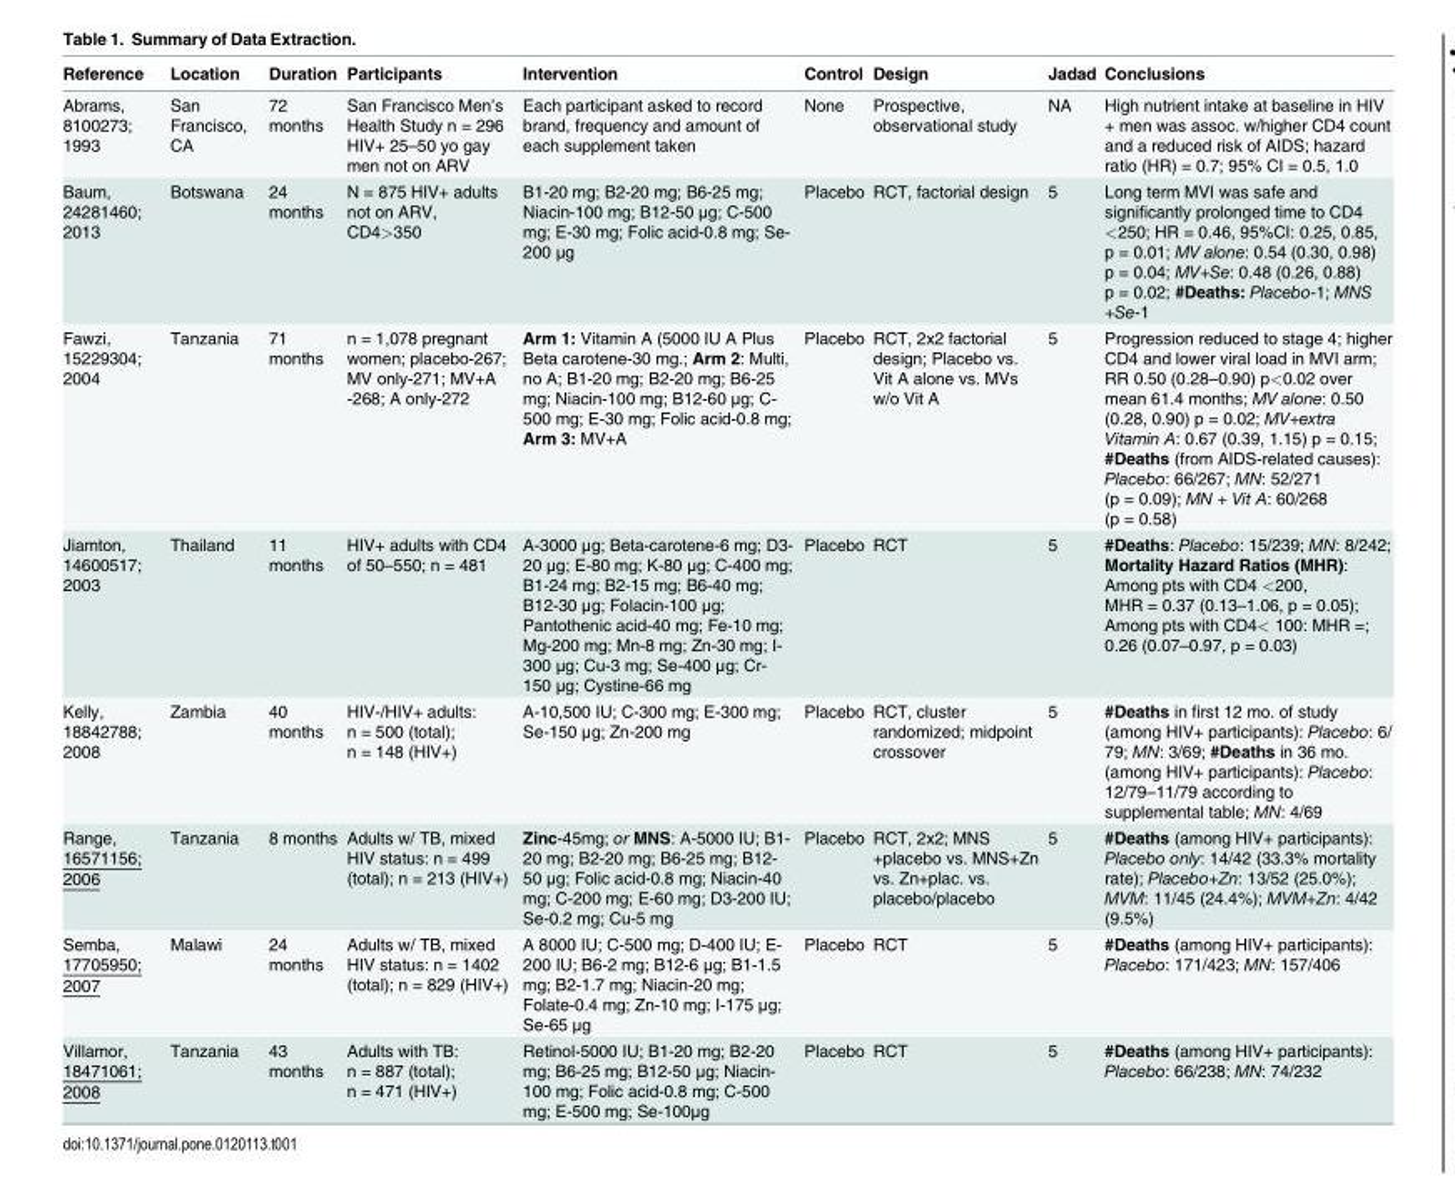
<table><thead><tr><td>Reference</td><td>Location</td><td>Duration</td><td>Participants</td><td>Intervention</td><td>Control</td><td>Design</td><td>Jadad</td><td>Conclusions</td></tr></thead><tbody><tr><td>Abrams, 8100273; 1993</td><td>San Francisco, CA</td><td>72 months</td><td>San Francisco Men’s Health Study n = 296 HIV+ 25–50 yo gay men not on ARV</td><td>Each participant asked to record brand, frequency and amount of each supplement taken</td><td>None</td><td>Prospective, observational study</td><td>NA</td><td>High nutrient intake at baseline in HIV + men was assoc. w/higher CD4 count and a reduced risk of AIDS; hazard ratio (HR) = 0.7; 95% CI = 0.5, 1.0</td></tr><tr><td>Baum, 24281460; 2013</td><td>Botswana</td><td>24 months</td><td>N = 875 HIV+ adults not on ARV, CD4&gt;350</td><td>B1-20 mg; B2-20 mg; B6-25 mg; Niacin-100 mg; B12-50 μg; C-500 mg; E-30 mg; Folic acid-0.8 mg; Se- 200 μg</td><td>Placebo</td><td>RCT, factorial design</td><td>5</td><td>Long term MVI was safe and significantly prolonged time to CD4 &lt;250; HR = 0.46, 95%CI: 0.25, 0.85, p = 0.01; MV alone: 0.54 (0.30, 0.98) p = 0.04; MV+Se: 0.48 (0.26, 0.88) p = 0.02; #Deaths: Placebo-1; MNS +Se-1</td></tr><tr><td>Fawzi, 15229304; 2004</td><td>Tanzania</td><td>71 months</td><td>n = 1,078 pregnant women; placebo-267; MV only-271; MV+A -268; A only-272</td><td>Arm 1: Vitamin A (5000 IU A Plus Beta carotene-30 mg.; Arm 2: Multi, no A; B1-20 mg; B2-20 mg; B6-25 mg; Niacin-100 mg; B12-60 μg; C- 500 mg; E-30 mg; Folic acid-0.8 mg; Arm 3: MV+A</td><td>Placebo</td><td>RCT, 2x2 factorial design; Placebo vs. Vit A alone vs. MVs w/o Vit A</td><td>5</td><td>Progression reduced to stage 4; higher CD4 and lower viral load in MVI arm; RR 0.50 (0.28–0.90) p&lt;0.02 over mean 61.4 months; MV alone: 0.50 (0.28, 0.90) p = 0.02; MV+extra Vitamin A: 0.67 (0.39, 1.15) p = 0.15; #Deaths (from AIDS-related causes): Placebo: 66/267; MN: 52/271 (p = 0.09); MN + Vit A: 60/268 (p = 0.58)</td></tr><tr><td>Jiamton, 14600517; 2003</td><td>Thailand</td><td>11 months</td><td>HIV+ adults with CD4 of 50–550; n = 481</td><td>A-3000 μg; Beta-carotene-6 mg; D3- 20 μg; E-80 mg; K-80 μg; C-400 mg; B1-24 mg; B2-15 mg; B6-40 mg; B12-30 μg; Folacin-100 μg; Pantothenic acid-40 mg; Fe-10 mg; Mg-200 mg; Mn-8 mg; Zn-30 mg; I- 300 μg; Cu-3 mg; Se-400 μg; Cr- 150 μg; Cystine-66 mg</td><td>Placebo</td><td>RCT</td><td>5</td><td>#Deaths: Placebo: 15/239; MN: 8/242; Mortality Hazard Ratios (MHR): Among pts with CD4 &lt;200, MHR = 0.37 (0.13–1.06, p = 0.05); Among pts with CD4&lt; 100: MHR =; 0.26 (0.07–0.97, p = 0.03)</td></tr><tr><td>Kelly, 18842788; 2008</td><td>Zambia</td><td>40 months</td><td>HIV-/HIV+ adults: n = 500 (total); n = 148 (HIV+)</td><td>A-10,500 IU; C-300 mg; E-300 mg; Se-150 μg; Zn-200 mg</td><td>Placebo</td><td>RCT, cluster randomized; midpoint crossover</td><td>5</td><td>#Deaths in first 12 mo. of study (among HIV+ participants): Placebo: 6/ 79; MN: 3/69; #Deaths in 36 mo. (among HIV+ participants): Placebo: 12/79–11/79 according to supplemental table; MN: 4/69</td></tr><tr><td>Range, 16571156; 2006</td><td>Tanzania</td><td>8 months</td><td>Adults w/ TB, mixed HIV status: n = 499 (total); n = 213 (HIV+)</td><td>Zinc-45mg; or MNS: A-5000 IU; B1- 20 mg; B2-20 mg; B6-25 mg; B12- 50 μg; Folic acid-0.8 mg; Niacin-40 mg; C-200 mg; E-60 mg; D3-200 IU; Se-0.2 mg; Cu-5 mg</td><td>Placebo</td><td>RCT, 2x2; MNS +placebo vs. MNS+Zn vs. Zn+plac. vs. placebo/placebo</td><td>5</td><td>#Deaths (among HIV+ participants): Placebo only: 14/42 (33.3% mortality rate); Placebo+Zn: 13/52 (25.0%); MVM: 11/45 (24.4%); MVM+Zn: 4/42 (9.5%)</td></tr><tr><td>Semba, 17705950; 2007</td><td>Malawi</td><td>24 months</td><td>Adults w/ TB, mixed HIV status: n = 1402 (total); n = 829 (HIV+)</td><td>A 8000 IU; C-500 mg; D-400 IU; E- 200 IU; B6-2 mg; B12-6 μg; B1-1.5 mg; B2-1.7 mg; Niacin-20 mg; Folate-0.4 mg; Zn-10 mg; I-175 μg; Se-65 μg</td><td>Placebo</td><td>RCT</td><td>5</td><td>#Deaths (among HIV+ participants): Placebo: 171/423; MN: 157/406</td></tr><tr><td>Villamor, 18471061; 2008</td><td>Tanzania</td><td>43 months</td><td>Adults with TB: n = 887 (total); n = 471 (HIV+)</td><td>Retinol-5000 IU; B1-20 mg; B2-20 mg; B6-25 mg; B12-50 μg; Niacin- 100 mg; Folic acid-0.8 mg; C-500 mg; E-500 mg; Se-100μg</td><td>Placebo</td><td>RCT</td><td>5</td><td>#Deaths (among HIV+ participants): Placebo: 66/238; MN: 74/232</td></tr></tbody></table>